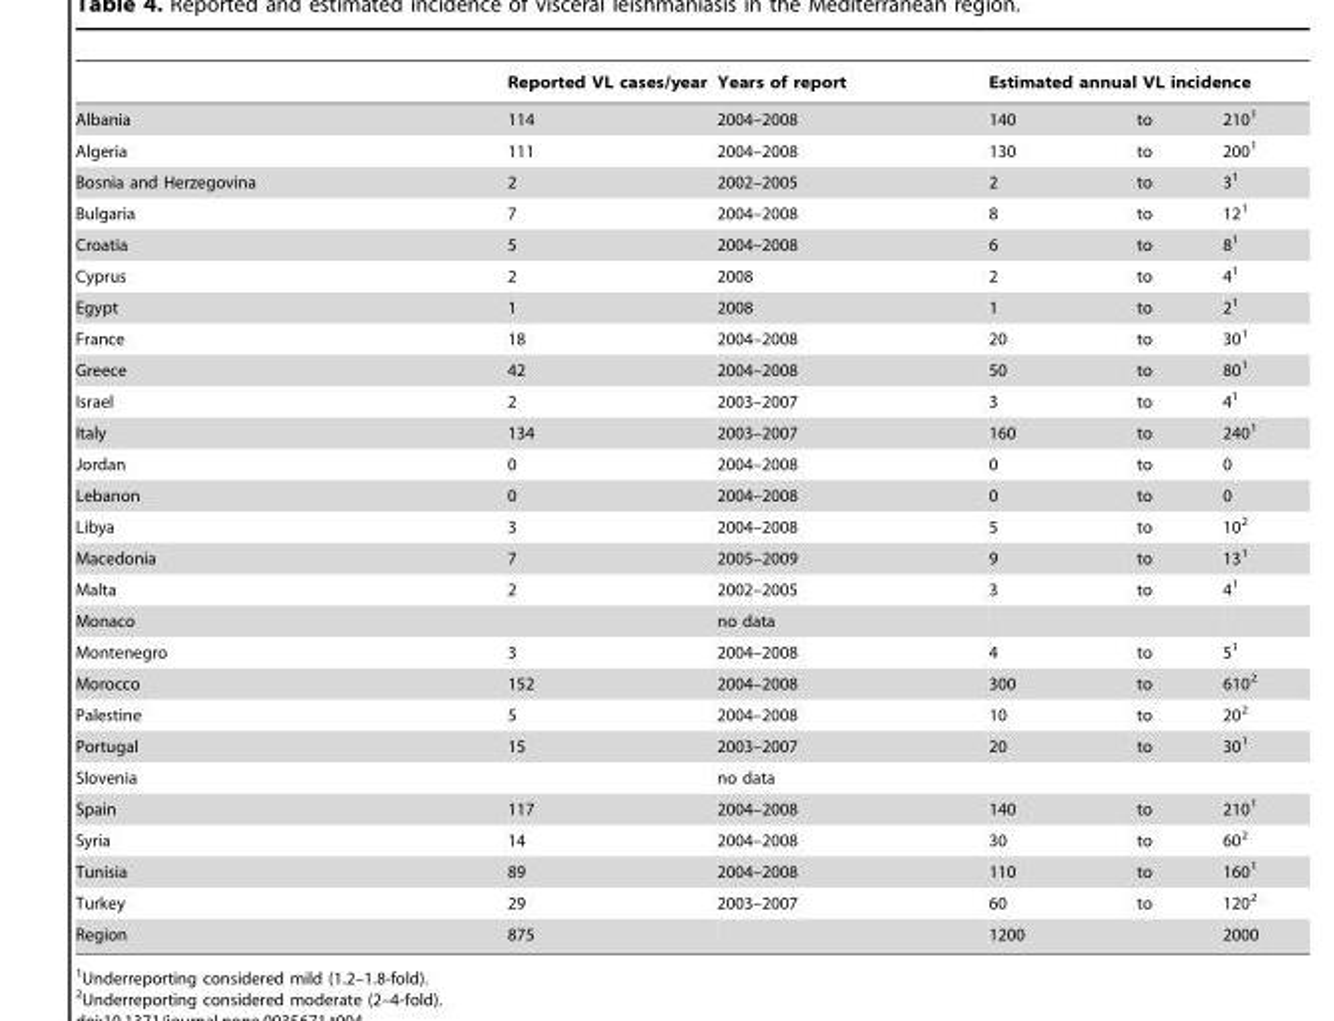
<table><thead><tr><td rowspan="2">Albania</td><td rowspan="2">Reported VL cases/year 114</td><td rowspan="2">Years of report 2004–2008</td><td colspan="3">Estimated annual VL incidence</td></tr><tr><td>140</td><td>to</td><td>210<sup>1</sup></td></tr></thead><tbody><tr><td>Algeria</td><td>111</td><td>2004–2008</td><td>130</td><td>to</td><td>200<sup>1</sup></td></tr><tr><td>Bosnia and Herzegovina</td><td>2</td><td>2002–2005</td><td>2</td><td>to</td><td>3<sup>1</sup></td></tr><tr><td>Bulgaria</td><td>7</td><td>2004–2008</td><td>8</td><td>to</td><td>12<sup>1</sup></td></tr><tr><td>Croatia</td><td>5</td><td>2004–2008</td><td>6</td><td>to</td><td>8<sup>1</sup></td></tr><tr><td>Cyprus</td><td>2</td><td>2008</td><td>2</td><td>to</td><td>4<sup>1</sup></td></tr><tr><td>Egypt</td><td>1</td><td>2008</td><td>1</td><td>to</td><td>2<sup>1</sup></td></tr><tr><td>France</td><td>18</td><td>2004–2008</td><td>20</td><td>to</td><td>30<sup>1</sup></td></tr><tr><td>Greece</td><td>42</td><td>2004–2008</td><td>50</td><td>to</td><td>80<sup>1</sup></td></tr><tr><td>Israel</td><td>2</td><td>2003–2007</td><td>3</td><td>to</td><td>4<sup>1</sup></td></tr><tr><td>Italy</td><td>134</td><td>2003–2007</td><td>160</td><td>to</td><td>240<sup>1</sup></td></tr><tr><td>Jordan</td><td>0</td><td>2004–2008</td><td>0</td><td>to</td><td>0</td></tr><tr><td>Lebanon</td><td>0</td><td>2004–2008</td><td>0</td><td>to</td><td>0</td></tr><tr><td>Libya</td><td>3</td><td>2004–2008</td><td>5</td><td>to</td><td>10<sup>2</sup></td></tr><tr><td>Macedonia</td><td>7</td><td>2005–2009</td><td>9</td><td>to</td><td>13<sup>1</sup></td></tr><tr><td>Malta</td><td>2</td><td>2002–2005</td><td>3</td><td>to</td><td>4<sup>1</sup></td></tr><tr><td>Monaco</td><td></td><td>no data</td><td></td><td></td><td></td></tr><tr><td>Montenegro</td><td>3</td><td>2004–2008</td><td>4</td><td>to</td><td>5<sup>1</sup></td></tr><tr><td>Morocco</td><td>152</td><td>2004–2008</td><td>300</td><td>to</td><td>610<sup>2</sup></td></tr><tr><td>Palestine</td><td>5</td><td>2004–2008</td><td>10</td><td>to</td><td>20<sup>2</sup></td></tr><tr><td>Portugal</td><td>15</td><td>2003–2007</td><td>20</td><td>to</td><td>30<sup>1</sup></td></tr><tr><td>Slovenia</td><td></td><td>no data</td><td></td><td></td><td></td></tr><tr><td>Spain</td><td>117</td><td>2004–2008</td><td>140</td><td>to</td><td>210<sup>1</sup></td></tr><tr><td>Syria</td><td>14</td><td>2004–2008</td><td>30</td><td>to</td><td>60<sup>2</sup></td></tr><tr><td>Tunisia</td><td>89</td><td>2004–2008</td><td>110</td><td>to</td><td>160<sup>1</sup></td></tr><tr><td>Turkey</td><td>29</td><td>2003–2007</td><td>60</td><td>to</td><td>120<sup>2</sup></td></tr><tr><td>Region</td><td>875</td><td></td><td>1200</td><td></td><td>2000</td></tr></tbody></table>